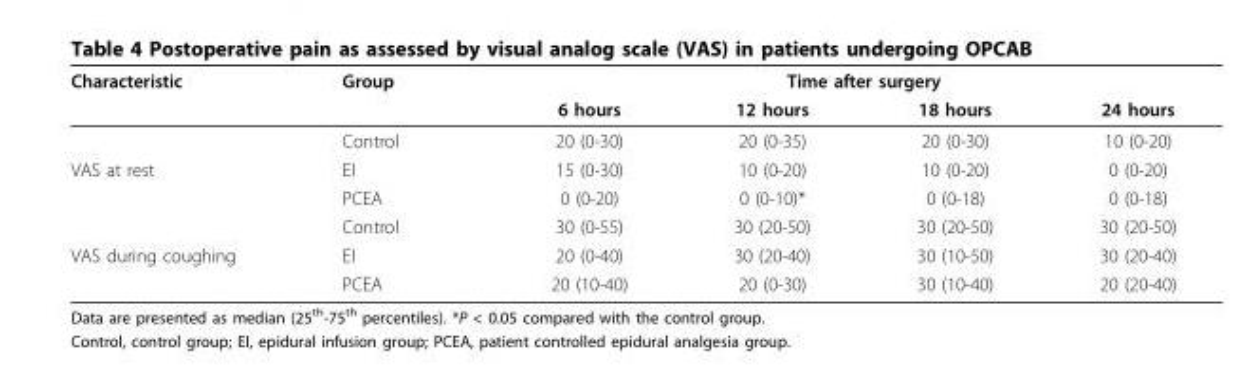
<table><thead><tr><td rowspan="2">Characteristic</td><td rowspan="2">Group</td><td colspan="4">Time after surgery</td></tr><tr><td>6 hours</td><td>12 hours</td><td>18 hours</td><td>24 hours</td></tr></thead><tbody><tr><td></td><td>Control</td><td>20 (0-30)</td><td>20 (0-35)</td><td>20 (0-30)</td><td>10 (0-20)</td></tr><tr><td rowspan="3">VAS at rest</td><td>EI</td><td>15 (0-30)</td><td>10 (0-20)</td><td>10 (0-20)</td><td>0 (0-20)</td></tr><tr><td>PCEA</td><td>0 (0-20)</td><td>0 (0-10)*</td><td>0 (0-18)</td><td>0 (0-18)</td></tr><tr><td>Control</td><td>30 (0-55)</td><td>30 (20-50)</td><td>30 (20-50)</td><td>30 (20-50)</td></tr><tr><td rowspan="2">VAS during coughing</td><td>EI</td><td>20 (0-40)</td><td>30 (20-40)</td><td>30 (10-50)</td><td>30 (20-40)</td></tr><tr><td>PCEA</td><td>20 (10-40)</td><td>20 (0-30)</td><td>30 (10-40)</td><td>20 (20-40)</td></tr></tbody></table>